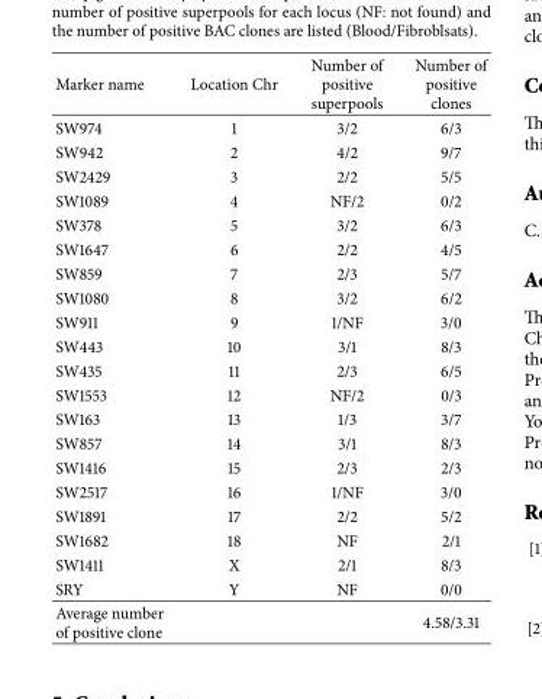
<table><thead><tr><td>Marker name</td><td>Location Chr</td><td>Number of positive superpools</td><td>Number of positive clones</td></tr></thead><tbody><tr><td>SW974</td><td>1</td><td>3/2</td><td>6/3</td></tr><tr><td>SW942</td><td>2</td><td>4/2</td><td>9/7</td></tr><tr><td>SW2429</td><td>3</td><td>2/2</td><td>5/5</td></tr><tr><td>SW1089</td><td>4</td><td>NF/2</td><td>0/2</td></tr><tr><td>SW378</td><td>5</td><td>3/2</td><td>6/3</td></tr><tr><td>SW1647</td><td>6</td><td>2/2</td><td>4/5</td></tr><tr><td>SW859</td><td>7</td><td>2/3</td><td>5/7</td></tr><tr><td>SW1080</td><td>8</td><td>3/2</td><td>6/2</td></tr><tr><td>SW911</td><td>9</td><td>1/NF</td><td>3/0</td></tr><tr><td>SW443</td><td>10</td><td>3/1</td><td>8/3</td></tr><tr><td>SW435</td><td>11</td><td>2/3</td><td>6/5</td></tr><tr><td>SW1553</td><td>12</td><td>NF/2</td><td>0/3</td></tr><tr><td>SW163</td><td>13</td><td>1/3</td><td>3/7</td></tr><tr><td>SW857</td><td>14</td><td>3/1</td><td>8/3</td></tr><tr><td>SW1416</td><td>15</td><td>2/3</td><td>2/3</td></tr><tr><td>SW2517</td><td>16</td><td>1/NF</td><td>3/0</td></tr><tr><td>SW1891</td><td>17</td><td>2/2</td><td>5/2</td></tr><tr><td>SW1682</td><td>18</td><td>NF</td><td>2/1</td></tr><tr><td>SW1411</td><td>X</td><td>2/1</td><td>8/3</td></tr><tr><td>SRY</td><td>Y</td><td>NF</td><td>0/0</td></tr><tr><td>Average number of positive clone</td><td></td><td></td><td>4.58/3.31</td></tr></tbody></table>